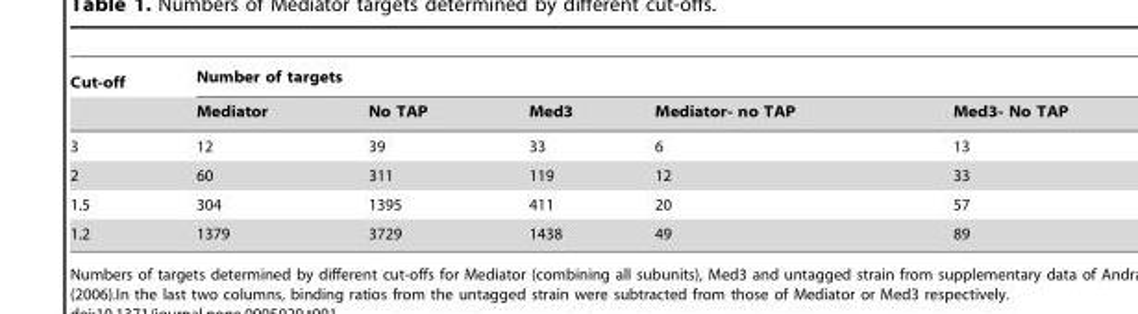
<table><thead><tr><td rowspan="2">Cut-off</td><td colspan="5">Number of targets</td></tr><tr><td>Mediator</td><td>No TAP</td><td>Med3</td><td>Mediator- no TAP</td><td>Med3- No TAP</td></tr></thead><tbody><tr><td>3</td><td>12</td><td>39</td><td>33</td><td>6</td><td>13</td></tr><tr><td>2</td><td>60</td><td>311</td><td>119</td><td>12</td><td>33</td></tr><tr><td>1.5</td><td>304</td><td>1395</td><td>411</td><td>20</td><td>57</td></tr><tr><td>1.2</td><td>1379</td><td>3729</td><td>1438</td><td>49</td><td>89</td></tr></tbody></table>